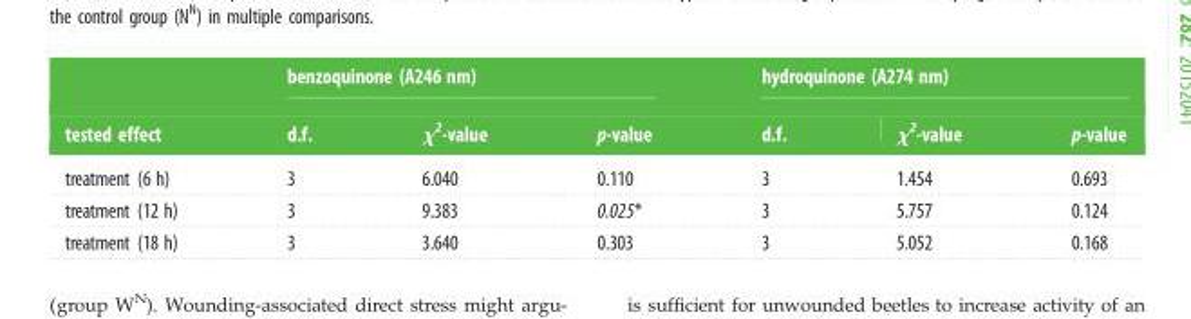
<table><thead><tr><td rowspan="2">tested effect</td><td colspan="3">benzoquinone (A246 nm)</td><td colspan="3">hydroquinone (A274 nm)</td></tr><tr><td>d.f.</td><td>χ<sup>2</sup>-value</td><td>p-value</td><td>d.f.</td><td>χ<sup>2</sup>-value</td><td>p-value</td></tr></thead><tbody><tr><td>treatment (6 h)</td><td>3</td><td>6.040</td><td>0.110</td><td>3</td><td>1.454</td><td>0.693</td></tr><tr><td>treatment (12 h)</td><td>3</td><td>9.383</td><td>0.025*</td><td>3</td><td>5.757</td><td>0.124</td></tr><tr><td>treatment (18 h)</td><td>3</td><td>3.640</td><td>0.303</td><td>3</td><td>5.052</td><td>0.168</td></tr></tbody></table>